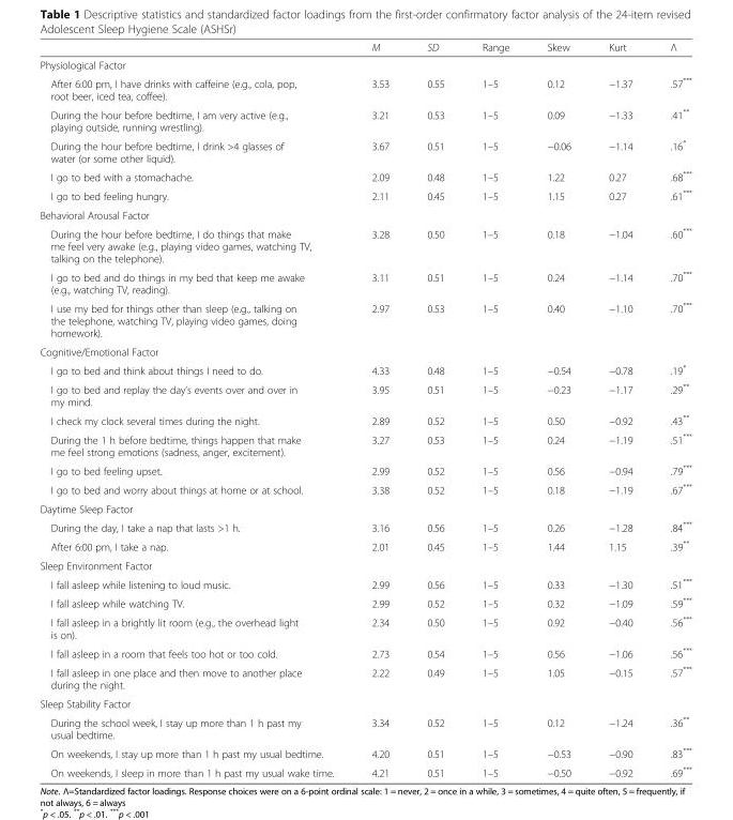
<table><thead><tr><td></td><td>M</td><td>SD</td><td>Range</td><td>Skew</td><td>Kurt</td><td>Λ</td></tr></thead><tbody><tr><td colspan="7">Physiological Factor</td></tr><tr><td>After 6:00 pm, I have drinks with caffeine (e.g., cola, pop, root beer, iced tea, coffee).</td><td>3.53</td><td>0.55</td><td>1–5</td><td>0.12</td><td>−1.37</td><td>.57***</td></tr><tr><td>During the hour before bedtime, I am very active (e.g., playing outside, running wrestling).</td><td>3.21</td><td>0.53</td><td>1–5</td><td>0.09</td><td>−1.33</td><td>.41**</td></tr><tr><td>During the hour before bedtime, I drink &gt;4 glasses of water (or some other liquid).</td><td>3.67</td><td>0.51</td><td>1–5</td><td>−0.06</td><td>−1.14</td><td>.16*</td></tr><tr><td>I go to bed with a stomachache.</td><td>2.09</td><td>0.48</td><td>1–5</td><td>1.22</td><td>0.27</td><td>.68***</td></tr><tr><td>I go to bed feeling hungry.</td><td>2.11</td><td>0.45</td><td>1–5</td><td>1.15</td><td>0.27</td><td>.61***</td></tr><tr><td colspan="7">Behavioral Arousal Factor</td></tr><tr><td>During the hour before bedtime, I do things that make me feel very awake (e.g., playing video games, watching TV, talking on the telephone).</td><td>3.28</td><td>0.50</td><td>1–5</td><td>0.18</td><td>−1.04</td><td>.60***</td></tr><tr><td>I go to bed and do things in my bed that keep me awake (e.g., watching TV, reading).</td><td>3.11</td><td>0.51</td><td>1–5</td><td>0.24</td><td>−1.14</td><td>.70***</td></tr><tr><td>I use my bed for things other than sleep (e.g., talking on the telephone, watching TV, playing video games, doing homework).</td><td>2.97</td><td>0.53</td><td>1–5</td><td>0.40</td><td>−1.10</td><td>.70***</td></tr><tr><td colspan="7">Cognitive/Emotional Factor</td></tr><tr><td>I go to bed and think about things I need to do.</td><td>4.33</td><td>0.48</td><td>1–5</td><td>−0.54</td><td>−0.78</td><td>.19*</td></tr><tr><td>I go to bed and replay the day’s events over and over in my mind.</td><td>3.95</td><td>0.51</td><td>1–5</td><td>−0.23</td><td>−1.17</td><td>.29**</td></tr><tr><td>I check my clock several times during the night.</td><td>2.89</td><td>0.52</td><td>1–5</td><td>0.50</td><td>−0.92</td><td>.43**</td></tr><tr><td>During the 1 h before bedtime, things happen that make me feel strong emotions (sadness, anger, excitement).</td><td>3.27</td><td>0.53</td><td>1–5</td><td>0.24</td><td>−1.19</td><td>.51***</td></tr><tr><td>I go to bed feeling upset.</td><td>2.99</td><td>0.52</td><td>1–5</td><td>0.56</td><td>−0.94</td><td>.79***</td></tr><tr><td>I go to bed and worry about things at home or at school.</td><td>3.38</td><td>0.52</td><td>1–5</td><td>0.18</td><td>−1.19</td><td>.67***</td></tr><tr><td colspan="7">Daytime Sleep Factor</td></tr><tr><td>During the day, I take a nap that lasts &gt;1 h.</td><td>3.16</td><td>0.56</td><td>1–5</td><td>0.26</td><td>−1.28</td><td>.84***</td></tr><tr><td>After 6:00 pm, I take a nap.</td><td>2.01</td><td>0.45</td><td>1–5</td><td>1.44</td><td>1.15</td><td>.39**</td></tr><tr><td colspan="7">Sleep Environment Factor</td></tr><tr><td>I fall asleep while listening to loud music.</td><td>2.99</td><td>0.56</td><td>1–5</td><td>0.33</td><td>−1.30</td><td>.51***</td></tr><tr><td>I fall asleep while watching TV.</td><td>2.99</td><td>0.52</td><td>1–5</td><td>0.32</td><td>−1.09</td><td>.59***</td></tr><tr><td>I fall asleep in a brightly lit room (e.g., the overhead light is on).</td><td>2.34</td><td>0.50</td><td>1–5</td><td>0.92</td><td>−0.40</td><td>.56***</td></tr><tr><td>I fall asleep in a room that feels too hot or too cold.</td><td>2.73</td><td>0.54</td><td>1–5</td><td>0.56</td><td>−1.06</td><td>.56***</td></tr><tr><td>I fall asleep in one place and then move to another place during the night.</td><td>2.22</td><td>0.49</td><td>1–5</td><td>1.05</td><td>−0.15</td><td>.57***</td></tr><tr><td colspan="7">Sleep Stability Factor</td></tr><tr><td>During the school week, I stay up more than 1 h past my usual bedtime.</td><td>3.34</td><td>0.52</td><td>1–5</td><td>0.12</td><td>−1.24</td><td>.36**</td></tr><tr><td>On weekends, I stay up more than 1 h past my usual bedtime.</td><td>4.20</td><td>0.51</td><td>1–5</td><td>−0.53</td><td>−0.90</td><td>.83***</td></tr><tr><td>On weekends, I sleep in more than 1 h past my usual wake time.</td><td>4.21</td><td>0.51</td><td>1–5</td><td>−0.50</td><td>−0.92</td><td>.69***</td></tr></tbody></table>